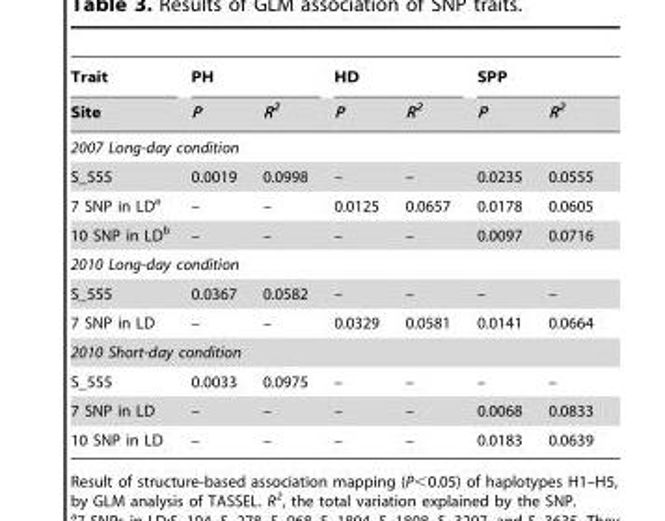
<table><thead><tr><td rowspan="2">Trait Site</td><td colspan="2">PH</td><td colspan="2">HD</td><td colspan="2">SPP</td></tr><tr><td>P</td><td>R<sup>2</sup></td><td>P</td><td>R<sup>2</sup></td><td>P</td><td>R<sup>2</sup></td></tr></thead><tbody><tr><td colspan="7">2007 Long-day condition</td></tr><tr><td>S_555</td><td>0.0019</td><td>0.0998</td><td>–</td><td>–</td><td>0.0235</td><td>0.0555</td></tr><tr><td>7 SNP in LD<sup>a</sup></td><td>–</td><td>–</td><td>0.0125</td><td>0.0657</td><td>0.0178</td><td>0.0605</td></tr><tr><td>10 SNP in LD<sup>b</sup></td><td>–</td><td>–</td><td>–</td><td>–</td><td>0.0097</td><td>0.0716</td></tr><tr><td colspan="7">2010 Long-day condition</td></tr><tr><td>S_555</td><td>0.0367</td><td>0.0582</td><td>–</td><td>–</td><td>–</td><td>–</td></tr><tr><td>7 SNP in LD</td><td>–</td><td>–</td><td>0.0329</td><td>0.0581</td><td>0.0141</td><td>0.0664</td></tr><tr><td colspan="7">2010 Short-day condition</td></tr><tr><td>S_555</td><td>0.0033</td><td>0.0975</td><td>–</td><td>–</td><td>–</td><td>–</td></tr><tr><td>7 SNP in LD</td><td>–</td><td>–</td><td>–</td><td>–</td><td>0.0068</td><td>0.0833</td></tr><tr><td>10 SNP in LD</td><td>–</td><td>–</td><td>–</td><td>–</td><td>0.0183</td><td>0.0639</td></tr></tbody></table>